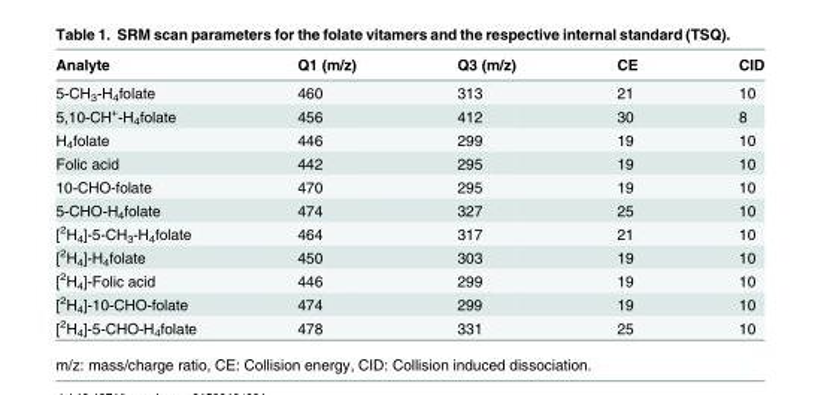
<table><thead><tr><td>Analyte</td><td>Q1 (m/z)</td><td>Q3 (m/z)</td><td>CE</td><td>CID</td></tr></thead><tbody><tr><td>5-CH<sub>3</sub>-H<sub>4</sub>folate</td><td>460</td><td>313</td><td>21</td><td>10</td></tr><tr><td>5,10-CH<sup>+</sup>-H<sub>4</sub>folate</td><td>456</td><td>412</td><td>30</td><td>8</td></tr><tr><td>H<sub>4</sub>folate</td><td>446</td><td>299</td><td>19</td><td>10</td></tr><tr><td>Folic acid</td><td>442</td><td>295</td><td>19</td><td>10</td></tr><tr><td>10-CHO-folate</td><td>470</td><td>295</td><td>19</td><td>10</td></tr><tr><td>5-CHO-H<sub>4</sub>folate</td><td>474</td><td>327</td><td>25</td><td>10</td></tr><tr><td>[<sup>2</sup>H<sub>4</sub>]-5-CH<sub>3</sub>-H<sub>4</sub>folate</td><td>464</td><td>317</td><td>21</td><td>10</td></tr><tr><td>[<sup>2</sup>H<sub>4</sub>]-H<sub>4</sub>folate</td><td>450</td><td>303</td><td>19</td><td>10</td></tr><tr><td>[<sup>2</sup>H<sub>4</sub>]-Folic acid</td><td>446</td><td>299</td><td>19</td><td>10</td></tr><tr><td>[<sup>2</sup>H<sub>4</sub>]-10-CHO-folate</td><td>474</td><td>299</td><td>19</td><td>10</td></tr><tr><td>[<sup>2</sup>H<sub>4</sub>]-5-CHO-H<sub>4</sub>folate</td><td>478</td><td>331</td><td>25</td><td>10</td></tr></tbody></table>